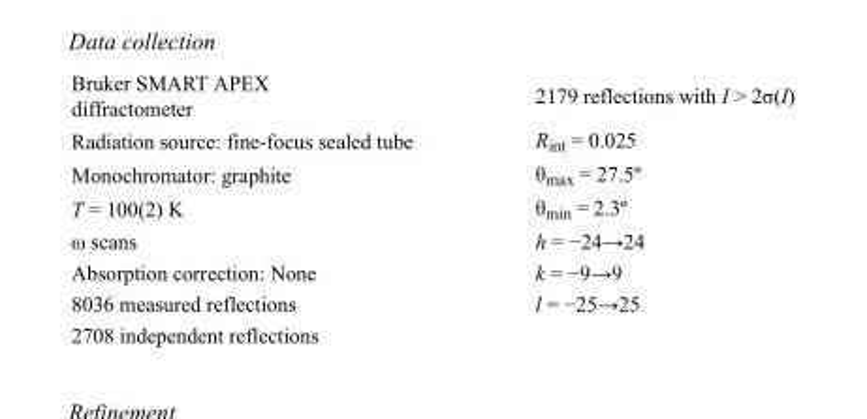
<table><tbody><tr><td>Bruker SMART APEX diffractometer</td><td>2179 reflections with I &gt; 2σ(I)</td></tr><tr><td>Radiation source: fine-focus sealed tube</td><td>R<sub>int</sub> = 0.025</td></tr><tr><td>Monochromator: graphite</td><td>θ<sub>max</sub> = 27.5º</td></tr><tr><td>T = 100(2) K</td><td>θ<sub>min</sub> = 2.3º</td></tr><tr><td>ω scans</td><td>h = −24→24</td></tr><tr><td>Absorption correction: None</td><td>k = −9→9</td></tr><tr><td>8036 measured reflections</td><td>l = −25→25</td></tr><tr><td>2708 independent reflections</td><td></td></tr></tbody></table>